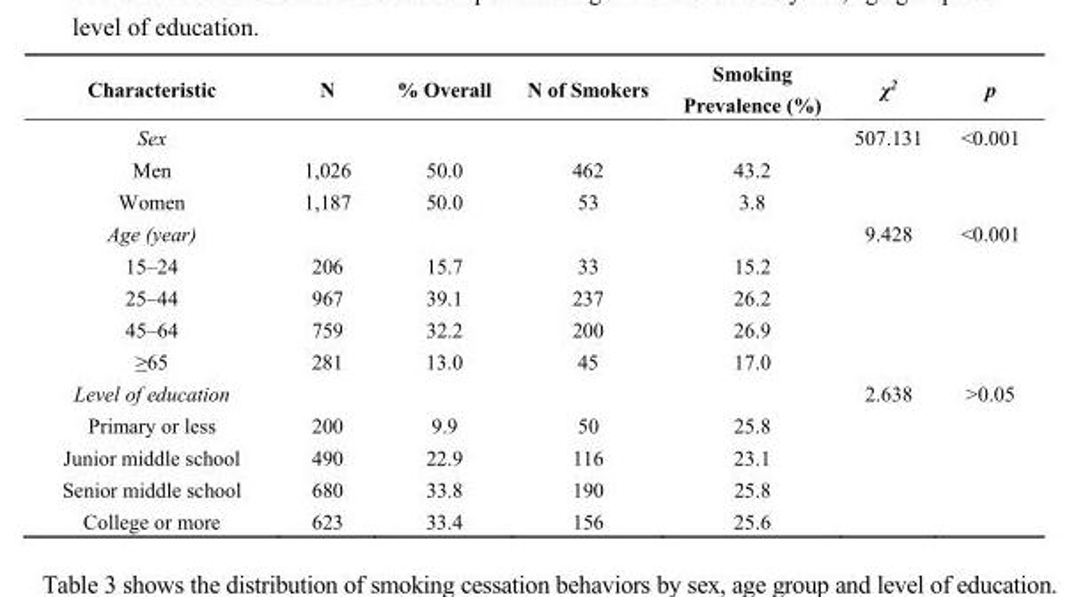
<table><thead><tr><td>Characteristic</td><td>N</td><td>% Overall</td><td>N of Smokers</td><td>Smoking Prevalence (%)</td><td>χ<sup>2</sup></td><td>p</td></tr></thead><tbody><tr><td>Sex</td><td></td><td></td><td></td><td></td><td>507.131</td><td>&lt;0.001</td></tr><tr><td>Men</td><td>1,026</td><td>50.0</td><td>462</td><td>43.2</td><td></td><td></td></tr><tr><td>Women</td><td>1,187</td><td>50.0</td><td>53</td><td>3.8</td><td></td><td></td></tr><tr><td>Age (year)</td><td></td><td></td><td></td><td></td><td>9.428</td><td>&lt;0.001</td></tr><tr><td>15–24</td><td>206</td><td>15.7</td><td>33</td><td>15.2</td><td></td><td></td></tr><tr><td>25–44</td><td>967</td><td>39.1</td><td>237</td><td>26.2</td><td></td><td></td></tr><tr><td>45–64</td><td>759</td><td>32.2</td><td>200</td><td>26.9</td><td></td><td></td></tr><tr><td>≥65</td><td>281</td><td>13.0</td><td>45</td><td>17.0</td><td></td><td></td></tr><tr><td>Level of education</td><td></td><td></td><td></td><td></td><td>2.638</td><td>&gt;0.05</td></tr><tr><td>Primary or less</td><td>200</td><td>9.9</td><td>50</td><td>25.8</td><td></td><td></td></tr><tr><td>Junior middle school</td><td>490</td><td>22.9</td><td>116</td><td>23.1</td><td></td><td></td></tr><tr><td>Senior middle school</td><td>680</td><td>33.8</td><td>190</td><td>25.8</td><td></td><td></td></tr><tr><td>College or more</td><td>623</td><td>33.4</td><td>156</td><td>25.6</td><td></td><td></td></tr></tbody></table>